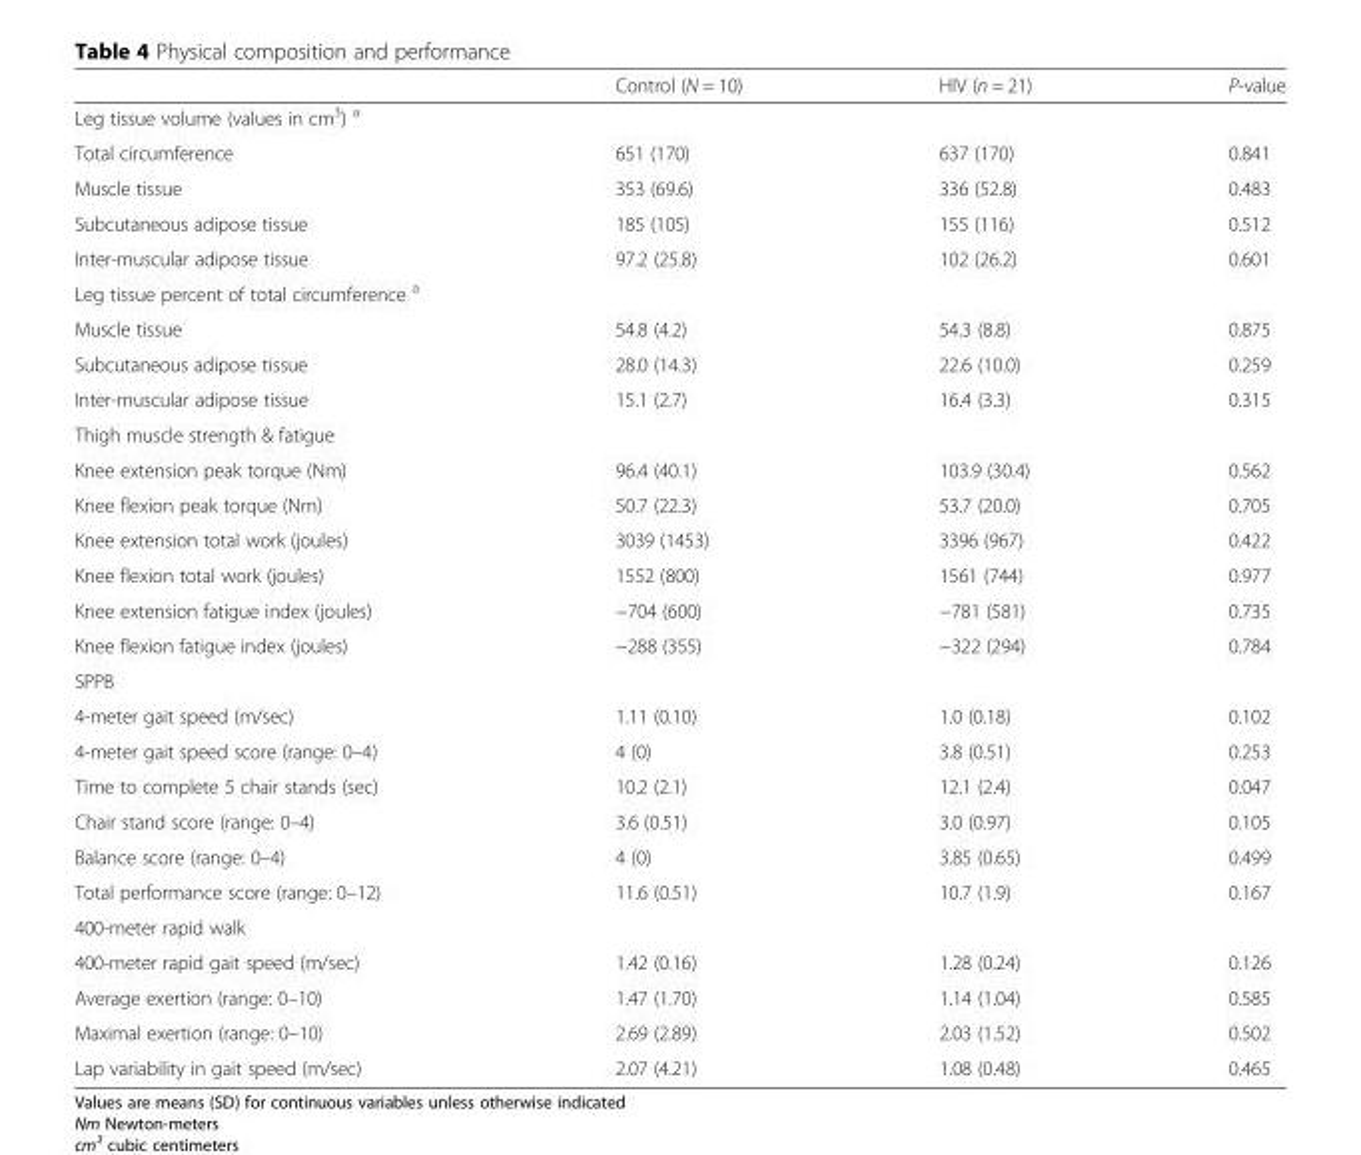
<table><thead><tr><td></td><td>Control (N = 10)</td><td>HIV (n = 21)</td><td>P-value</td></tr></thead><tbody><tr><td colspan="4">Leg tissue volume (values in cm<sup>3</sup>) <sup>a</sup></td></tr><tr><td>Total circumference</td><td>651 (170)</td><td>637 (170)</td><td>0.841</td></tr><tr><td>Muscle tissue</td><td>353 (69.6)</td><td>336 (52.8)</td><td>0.483</td></tr><tr><td>Subcutaneous adipose tissue</td><td>185 (105)</td><td>155 (116)</td><td>0.512</td></tr><tr><td>Inter-muscular adipose tissue</td><td>97.2 (25.8)</td><td>102 (26.2)</td><td>0.601</td></tr><tr><td colspan="4">Leg tissue percent of total circumference <sup>a</sup></td></tr><tr><td>Muscle tissue</td><td>54.8 (4.2)</td><td>54.3 (8.8)</td><td>0.875</td></tr><tr><td>Subcutaneous adipose tissue</td><td>28.0 (14.3)</td><td>22.6 (10.0)</td><td>0.259</td></tr><tr><td>Inter-muscular adipose tissue</td><td>15.1 (2.7)</td><td>16.4 (3.3)</td><td>0.315</td></tr><tr><td colspan="4">Thigh muscle strength &amp; fatigue</td></tr><tr><td>Knee extension peak torque (Nm)</td><td>96.4 (40.1)</td><td>103.9 (30.4)</td><td>0.562</td></tr><tr><td>Knee flexion peak torque (Nm)</td><td>50.7 (22.3)</td><td>53.7 (20.0)</td><td>0.705</td></tr><tr><td>Knee extension total work (joules)</td><td>3039 (1453)</td><td>3396 (967)</td><td>0.422</td></tr><tr><td>Knee flexion total work (joules)</td><td>1552 (800)</td><td>1561 (744)</td><td>0.977</td></tr><tr><td>Knee extension fatigue index (joules)</td><td>−704 (600)</td><td>−781 (581)</td><td>0.735</td></tr><tr><td>Knee flexion fatigue index (joules)</td><td>−288 (355)</td><td>−322 (294)</td><td>0.784</td></tr><tr><td colspan="4">SPPB</td></tr><tr><td>4-meter gait speed (m/sec)</td><td>1.11 (0.10)</td><td>1.0 (0.18)</td><td>0.102</td></tr><tr><td>4-meter gait speed score (range: 0–4)</td><td>4 (0)</td><td>3.8 (0.51)</td><td>0.253</td></tr><tr><td>Time to complete 5 chair stands (sec)</td><td>10.2 (2.1)</td><td>12.1 (2.4)</td><td>0.047</td></tr><tr><td>Chair stand score (range: 0–4)</td><td>3.6 (0.51)</td><td>3.0 (0.97)</td><td>0.105</td></tr><tr><td>Balance score (range: 0–4)</td><td>4 (0)</td><td>3.85 (0.65)</td><td>0.499</td></tr><tr><td>Total performance score (range: 0–12)</td><td>11.6 (0.51)</td><td>10.7 (1.9)</td><td>0.167</td></tr><tr><td colspan="4">400-meter rapid walk</td></tr><tr><td>400-meter rapid gait speed (m/sec)</td><td>1.42 (0.16)</td><td>1.28 (0.24)</td><td>0.126</td></tr><tr><td>Average exertion (range: 0–10)</td><td>1.47 (1.70)</td><td>1.14 (1.04)</td><td>0.585</td></tr><tr><td>Maximal exertion (range: 0–10)</td><td>2.69 (2.89)</td><td>2.03 (1.52)</td><td>0.502</td></tr><tr><td>Lap variability in gait speed (m/sec)</td><td>2.07 (4.21)</td><td>1.08 (0.48)</td><td>0.465</td></tr></tbody></table>